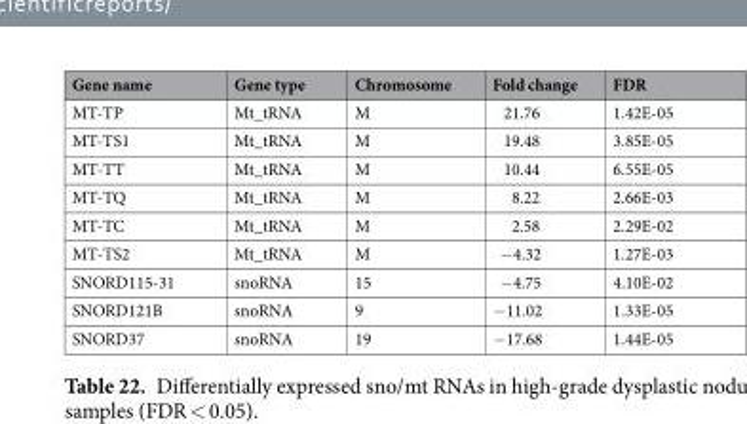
<table><thead><tr><td>Gene name</td><td>Gene type</td><td>Chromosome</td><td>Fold change</td><td>FDR</td></tr></thead><tbody><tr><td>MT-TP</td><td>Mt_tRNA</td><td>M</td><td>21.76</td><td>1.42E-05</td></tr><tr><td>MT-TS1</td><td>Mt_tRNA</td><td>M</td><td>19.48</td><td>3.85E-05</td></tr><tr><td>MT-TT</td><td>Mt_tRNA</td><td>M</td><td>10.44</td><td>6.55E-05</td></tr><tr><td>MT-TQ</td><td>Mt_tRNA</td><td>M</td><td>8.22</td><td>2.66E-03</td></tr><tr><td>MT-TC</td><td>Mt_tRNA</td><td>M</td><td>2.58</td><td>2.29E-02</td></tr><tr><td>MT-TS2</td><td>Mt_tRNA</td><td>M</td><td>−4.32</td><td>1.27E-03</td></tr><tr><td>SNORD115-31</td><td>snoRNA</td><td>15</td><td>−4.75</td><td>4.10E-02</td></tr><tr><td>SNORD121B</td><td>snoRNA</td><td>9</td><td>−11.02</td><td>1.33E-05</td></tr><tr><td>SNORD37</td><td>snoRNA</td><td>19</td><td>−17.68</td><td>1.44E-05</td></tr></tbody></table>